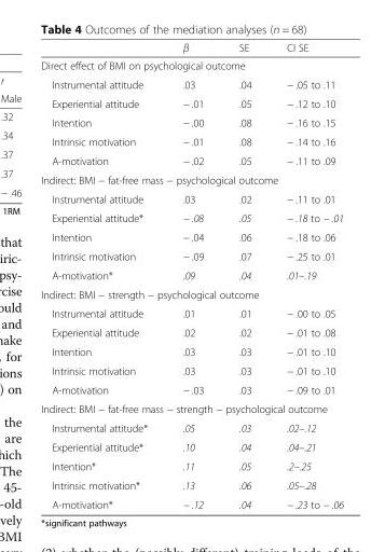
<table><thead><tr><td></td><td>β</td><td>SE</td><td>CI SE</td></tr></thead><tbody><tr><td colspan="4">Direct effect of BMI on psychological outcome</td></tr><tr><td>Instrumental attitude</td><td>.03</td><td>.04</td><td>− .05 to .11</td></tr><tr><td>Experiential attitude</td><td>− .01</td><td>.05</td><td>− .12 to .10</td></tr><tr><td>Intention</td><td>− .00</td><td>.08</td><td>− .16 to .15</td></tr><tr><td>Intrinsic motivation</td><td>− .01</td><td>.08</td><td>− .14 to .16</td></tr><tr><td>A-motivation</td><td>− .02</td><td>.05</td><td>− .11 to .09</td></tr><tr><td colspan="4">Indirect: BMI − fat-free mass − psychological outcome</td></tr><tr><td>Instrumental attitude</td><td>.03</td><td>.02</td><td>− .11 to .01</td></tr><tr><td>Experiential attitude*</td><td>− .08</td><td>.05</td><td>− .18 to − .01</td></tr><tr><td>Intention</td><td>− .04</td><td>.06</td><td>− .18 to .06</td></tr><tr><td>Intrinsic motivation</td><td>− .09</td><td>.07</td><td>− .25 to .01</td></tr><tr><td>A-motivation*</td><td>.09</td><td>.04</td><td>.01–.19</td></tr><tr><td colspan="4">Indirect: BMI − strength − psychological outcome</td></tr><tr><td>Instrumental attitude</td><td>.01</td><td>.01</td><td>− .00 to .05</td></tr><tr><td>Experiential attitude</td><td>.02</td><td>.02</td><td>− .01 to .08</td></tr><tr><td>Intention</td><td>.03</td><td>.03</td><td>− .01 to .10</td></tr><tr><td>Intrinsic motivation</td><td>.03</td><td>.03</td><td>− .01 to .10</td></tr><tr><td>A-motivation</td><td>− .03</td><td>.03</td><td>− .09 to .01</td></tr><tr><td colspan="4">Indirect: BMI − fat-free mass − strength − psychological outcome</td></tr><tr><td>Instrumental attitude*</td><td>.05</td><td>.03</td><td>.02–.12</td></tr><tr><td>Experiential attitude*</td><td>.10</td><td>.04</td><td>.04–.21</td></tr><tr><td>Intention*</td><td>.11</td><td>.05</td><td>.2–.25</td></tr><tr><td>Intrinsic motivation*</td><td>.13</td><td>.06</td><td>.05–.28</td></tr><tr><td>A-motivation*</td><td>− .12</td><td>.04</td><td>− .23 to − .06</td></tr></tbody></table>